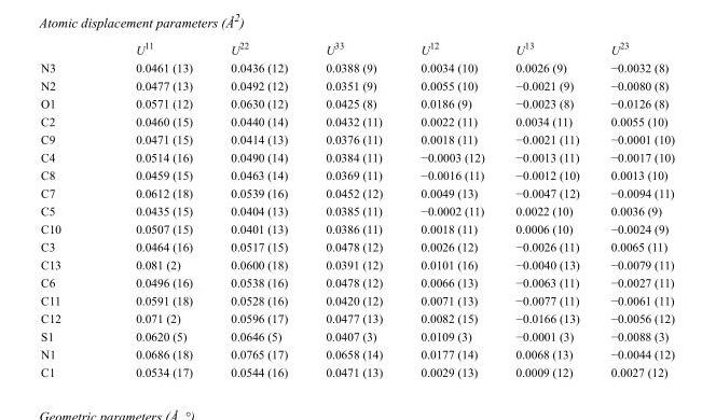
<table><thead><tr><td></td><td>U<sup>11</sup></td><td>U<sup>22</sup></td><td>U<sup>33</sup></td><td>U<sup>12</sup></td><td>U<sup>13</sup></td><td>U<sup>23</sup></td></tr></thead><tbody><tr><td>N3</td><td>0.0461 (13)</td><td>0.0436 (12)</td><td>0.0388 (9)</td><td>0.0034 (10)</td><td>0.0026 (9)</td><td>−0.0032 (8)</td></tr><tr><td>N2</td><td>0.0477 (13)</td><td>0.0492 (12)</td><td>0.0351 (9)</td><td>0.0055 (10)</td><td>−0.0021 (9)</td><td>−0.0080 (8)</td></tr><tr><td>O1</td><td>0.0571 (12)</td><td>0.0630 (12)</td><td>0.0425 (8)</td><td>0.0186 (9)</td><td>−0.0023 (8)</td><td>−0.0126 (8)</td></tr><tr><td>C2</td><td>0.0460 (15)</td><td>0.0440 (14)</td><td>0.0432 (11)</td><td>0.0022 (11)</td><td>0.0034 (11)</td><td>0.0055 (10)</td></tr><tr><td>C9</td><td>0.0471 (15)</td><td>0.0414 (13)</td><td>0.0376 (11)</td><td>0.0018 (11)</td><td>−0.0021 (11)</td><td>−0.0001 (10)</td></tr><tr><td>C4</td><td>0.0514 (16)</td><td>0.0490 (14)</td><td>0.0384 (11)</td><td>−0.0003 (12)</td><td>−0.0013 (11)</td><td>−0.0017 (10)</td></tr><tr><td>C8</td><td>0.0459 (15)</td><td>0.0463 (14)</td><td>0.0369 (11)</td><td>−0.0016 (11)</td><td>−0.0012 (10)</td><td>0.0013 (10)</td></tr><tr><td>C7</td><td>0.0612 (18)</td><td>0.0539 (16)</td><td>0.0452 (12)</td><td>0.0049 (13)</td><td>−0.0047 (12)</td><td>−0.0094 (11)</td></tr><tr><td>C5</td><td>0.0435 (15)</td><td>0.0404 (13)</td><td>0.0385 (11)</td><td>−0.0002 (11)</td><td>0.0022 (10)</td><td>0.0036 (9)</td></tr><tr><td>C10</td><td>0.0507 (15)</td><td>0.0401 (13)</td><td>0.0386 (11)</td><td>0.0018 (11)</td><td>0.0006 (10)</td><td>−0.0024 (9)</td></tr><tr><td>C3</td><td>0.0464 (16)</td><td>0.0517 (15)</td><td>0.0478 (12)</td><td>0.0026 (12)</td><td>−0.0026 (11)</td><td>0.0065 (11)</td></tr><tr><td>C13</td><td>0.081 (2)</td><td>0.0600 (18)</td><td>0.0391 (12)</td><td>0.0101 (16)</td><td>−0.0040 (13)</td><td>−0.0079 (11)</td></tr><tr><td>C6</td><td>0.0496 (16)</td><td>0.0538 (16)</td><td>0.0478 (12)</td><td>0.0066 (13)</td><td>−0.0063 (11)</td><td>−0.0027 (11)</td></tr><tr><td>C11</td><td>0.0591 (18)</td><td>0.0528 (16)</td><td>0.0420 (12)</td><td>0.0071 (13)</td><td>−0.0077 (11)</td><td>−0.0061 (11)</td></tr><tr><td>C12</td><td>0.071 (2)</td><td>0.0596 (17)</td><td>0.0477 (13)</td><td>0.0082 (15)</td><td>−0.0166 (13)</td><td>−0.0056 (12)</td></tr><tr><td>S1</td><td>0.0620 (5)</td><td>0.0646 (5)</td><td>0.0407 (3)</td><td>0.0109 (3)</td><td>−0.0001 (3)</td><td>−0.0088 (3)</td></tr><tr><td>N1</td><td>0.0686 (18)</td><td>0.0765 (17)</td><td>0.0658 (14)</td><td>0.0177 (14)</td><td>0.0068 (13)</td><td>−0.0044 (12)</td></tr><tr><td>C1</td><td>0.0534 (17)</td><td>0.0544 (16)</td><td>0.0471 (13)</td><td>0.0029 (13)</td><td>0.0009 (12)</td><td>0.0027 (12)</td></tr></tbody></table>